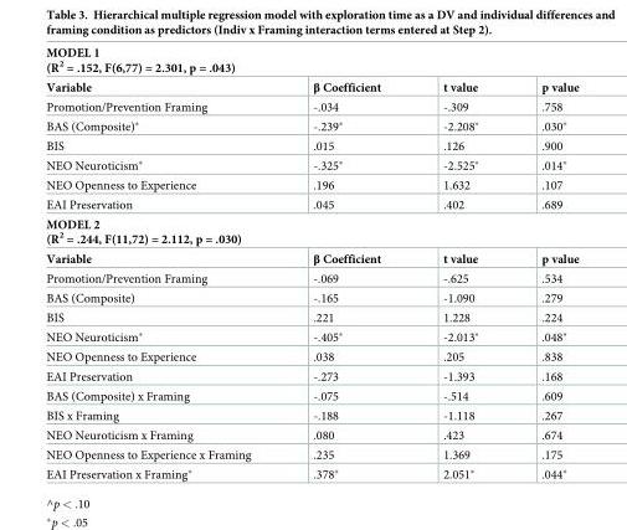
<table><tbody><tr><td colspan="4">MODEL 1 (R<sup>2</sup> = .152, F(6,77) = 2.301, p = .043)</td></tr><tr><td>Variable</td><td>β Coefficient</td><td>t value</td><td>p value</td></tr><tr><td>Promotion/Prevention Framing</td><td>-.034</td><td>-.309</td><td>.758</td></tr><tr><td>BAS (Composite)*</td><td>-.239*</td><td>-2.208*</td><td>.030*</td></tr><tr><td>BIS</td><td>.015</td><td>.126</td><td>.900</td></tr><tr><td>NEO Neuroticism*</td><td>-.325*</td><td>-2.525*</td><td>.014*</td></tr><tr><td>NEO Openness to Experience</td><td>.196</td><td>1.632</td><td>.107</td></tr><tr><td>EAI Preservation</td><td>.045</td><td>.402</td><td>.689</td></tr><tr><td colspan="4">MODEL 2 (R<sup>2</sup> = .244, F(11,72) = 2.112, p = .030)</td></tr><tr><td>Variable</td><td>β Coefficient</td><td>t value</td><td>p value</td></tr><tr><td>Promotion/Prevention Framing</td><td>-.069</td><td>-.625</td><td>.534</td></tr><tr><td>BAS (Composite)</td><td>-.165</td><td>-1.090</td><td>.279</td></tr><tr><td>BIS</td><td>.221</td><td>1.228</td><td>.224</td></tr><tr><td>NEO Neuroticism*</td><td>-.405*</td><td>-2.013*</td><td>.048*</td></tr><tr><td>NEO Openness to Experience</td><td>.038</td><td>.205</td><td>.838</td></tr><tr><td>EAI Preservation</td><td>-.273</td><td>-1.393</td><td>.168</td></tr><tr><td>BAS (Composite) x Framing</td><td>-.075</td><td>-.514</td><td>.609</td></tr><tr><td>BIS x Framing</td><td>-.188</td><td>-1.118</td><td>.267</td></tr><tr><td>NEO Neuroticism x Framing</td><td>.080</td><td>.423</td><td>.674</td></tr><tr><td>NEO Openness to Experience x Framing</td><td>.235</td><td>1.369</td><td>.175</td></tr><tr><td>EAI Preservation x Framing*</td><td>.378*</td><td>2.051*</td><td>.044*</td></tr></tbody></table>